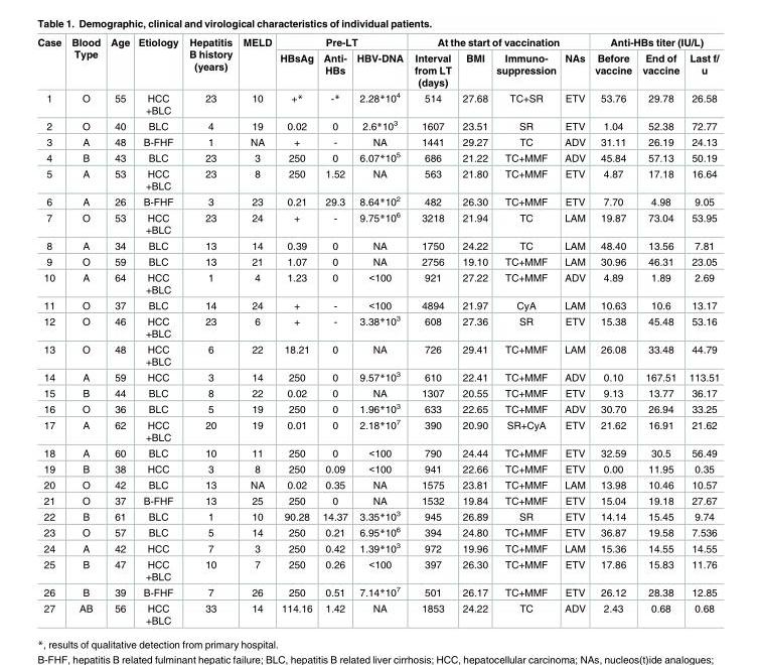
<table><thead><tr><td rowspan="2">Case</td><td rowspan="2">Blood Type</td><td rowspan="2">Age</td><td rowspan="2">Etiology</td><td rowspan="2">Hepatitis B history (years)</td><td rowspan="2">MELD</td><td colspan="3">Pre-LT</td><td colspan="4">At the start of vaccination</td><td colspan="3">Anti-HBs titer (IU/L)</td></tr><tr><td>HBsAg</td><td>Anti- HBs</td><td>HBV-DNA</td><td>Interval from LT (days)</td><td>BMI</td><td>Immuno- suppression</td><td>NAs</td><td>Before vaccine</td><td>End of vaccine</td><td>Last f/ u</td></tr></thead><tbody><tr><td>1</td><td>O</td><td>55</td><td>HCC +BLC</td><td>23</td><td>10</td><td>+*</td><td>-*</td><td>2.28*10<sup>4</sup></td><td>514</td><td>27.68</td><td>TC+SR</td><td>ETV</td><td>53.76</td><td>29.78</td><td>26.58</td></tr><tr><td>2</td><td>O</td><td>40</td><td>BLC</td><td>4</td><td>19</td><td>0.02</td><td>0</td><td>2.6*10<sup>3</sup></td><td>1607</td><td>23.51</td><td>SR</td><td>ETV</td><td>1.04</td><td>52.38</td><td>72.77</td></tr><tr><td>3</td><td>A</td><td>48</td><td>B-FHF</td><td>1</td><td>NA</td><td>+</td><td>-</td><td>NA</td><td>1441</td><td>29.27</td><td>TC</td><td>ADV</td><td>31.11</td><td>26.19</td><td>24.13</td></tr><tr><td>4</td><td>B</td><td>43</td><td>BLC</td><td>23</td><td>3</td><td>250</td><td>0</td><td>6.07*10<sup>5</sup></td><td>686</td><td>21.22</td><td>TC+MMF</td><td>ADV</td><td>45.84</td><td>57.13</td><td>50.19</td></tr><tr><td>5</td><td>A</td><td>53</td><td>HCC +BLC</td><td>23</td><td>8</td><td>250</td><td>1.52</td><td>NA</td><td>563</td><td>21.80</td><td>TC+MMF</td><td>ETV</td><td>4.87</td><td>17.18</td><td>16.64</td></tr><tr><td>6</td><td>A</td><td>26</td><td>B-FHF</td><td>3</td><td>23</td><td>0.21</td><td>29.3</td><td>8.64*10<sup>2</sup></td><td>482</td><td>26.30</td><td>TC+MMF</td><td>ETV</td><td>7.70</td><td>4.98</td><td>9.05</td></tr><tr><td>7</td><td>O</td><td>53</td><td>HCC +BLC</td><td>23</td><td>24</td><td>+</td><td>-</td><td>9.75*10<sup>6</sup></td><td>3218</td><td>21.94</td><td>TC</td><td>LAM</td><td>19.87</td><td>73.04</td><td>53.95</td></tr><tr><td>8</td><td>A</td><td>34</td><td>BLC</td><td>13</td><td>14</td><td>0.39</td><td>0</td><td>NA</td><td>1750</td><td>24.22</td><td>TC</td><td>LAM</td><td>48.40</td><td>13.56</td><td>7.81</td></tr><tr><td>9</td><td>O</td><td>59</td><td>BLC</td><td>13</td><td>21</td><td>1.07</td><td>0</td><td>NA</td><td>2756</td><td>19.10</td><td>TC+MMF</td><td>LAM</td><td>30.96</td><td>46.31</td><td>23.05</td></tr><tr><td>10</td><td>A</td><td>64</td><td>HCC +BLC</td><td>1</td><td>4</td><td>1.23</td><td>0</td><td>&lt;100</td><td>921</td><td>27.22</td><td>TC+MMF</td><td>ADV</td><td>4.89</td><td>1.89</td><td>2.69</td></tr><tr><td>11</td><td>O</td><td>37</td><td>BLC</td><td>14</td><td>24</td><td>+</td><td>-</td><td>&lt;100</td><td>4894</td><td>21.97</td><td>CyA</td><td>LAM</td><td>10.63</td><td>10.6</td><td>13.17</td></tr><tr><td>12</td><td>O</td><td>46</td><td>HCC +BLC</td><td>23</td><td>6</td><td>+</td><td>-</td><td>3.38*10<sup>3</sup></td><td>608</td><td>27.36</td><td>SR</td><td>ETV</td><td>15.38</td><td>45.48</td><td>53.16</td></tr><tr><td>13</td><td>O</td><td>48</td><td>HCC +BLC</td><td>6</td><td>22</td><td>18.21</td><td>0</td><td>NA</td><td>726</td><td>29.41</td><td>TC+MMF</td><td>LAM</td><td>26.08</td><td>33.48</td><td>44.79</td></tr><tr><td>14</td><td>A</td><td>59</td><td>HCC</td><td>3</td><td>14</td><td>250</td><td>0</td><td>9.57*10<sup>3</sup></td><td>610</td><td>22.41</td><td>TC+MMF</td><td>ADV</td><td>0.10</td><td>167.51</td><td>113.51</td></tr><tr><td>15</td><td>B</td><td>44</td><td>BLC</td><td>8</td><td>22</td><td>0.02</td><td>0</td><td>NA</td><td>1307</td><td>20.55</td><td>TC+MMF</td><td>ETV</td><td>9.13</td><td>13.77</td><td>36.17</td></tr><tr><td>16</td><td>O</td><td>36</td><td>BLC</td><td>5</td><td>19</td><td>250</td><td>0</td><td>1.96*10<sup>3</sup></td><td>633</td><td>22.65</td><td>TC+MMF</td><td>ADV</td><td>30.70</td><td>26.94</td><td>33.25</td></tr><tr><td>17</td><td>A</td><td>62</td><td>HCC +BLC</td><td>20</td><td>19</td><td>0.01</td><td>0</td><td>2.18*10<sup>7</sup></td><td>390</td><td>20.90</td><td>SR+CyA</td><td>ETV</td><td>21.62</td><td>16.91</td><td>21.62</td></tr><tr><td>18</td><td>A</td><td>60</td><td>BLC</td><td>10</td><td>11</td><td>250</td><td>0</td><td>&lt;100</td><td>790</td><td>24.44</td><td>TC+MMF</td><td>ETV</td><td>32.59</td><td>30.5</td><td>56.49</td></tr><tr><td>19</td><td>B</td><td>38</td><td>HCC</td><td>3</td><td>8</td><td>250</td><td>0.09</td><td>&lt;100</td><td>941</td><td>22.66</td><td>TC+MMF</td><td>ETV</td><td>0.00</td><td>11.95</td><td>0.35</td></tr><tr><td>20</td><td>O</td><td>42</td><td>BLC</td><td>13</td><td>NA</td><td>0.02</td><td>0.35</td><td>NA</td><td>1575</td><td>23.81</td><td>TC+MMF</td><td>LAM</td><td>13.98</td><td>10.46</td><td>10.57</td></tr><tr><td>21</td><td>O</td><td>37</td><td>B-FHF</td><td>13</td><td>25</td><td>250</td><td>0</td><td>NA</td><td>1532</td><td>19.84</td><td>TC+MMF</td><td>ETV</td><td>15.04</td><td>19.18</td><td>27.67</td></tr><tr><td>22</td><td>B</td><td>61</td><td>BLC</td><td>1</td><td>10</td><td>90.28</td><td>14.37</td><td>3.35*10<sup>3</sup></td><td>945</td><td>26.89</td><td>SR</td><td>ETV</td><td>14.14</td><td>15.45</td><td>9.74</td></tr><tr><td>23</td><td>O</td><td>57</td><td>BLC</td><td>5</td><td>14</td><td>250</td><td>0.21</td><td>6.95*10<sup>6</sup></td><td>394</td><td>24.80</td><td>TC+MMF</td><td>ETV</td><td>36.87</td><td>19.58</td><td>7.536</td></tr><tr><td>24</td><td>A</td><td>42</td><td>HCC</td><td>7</td><td>3</td><td>250</td><td>0.42</td><td>1.39*10<sup>3</sup></td><td>972</td><td>19.96</td><td>TC+MMF</td><td>LAM</td><td>15.36</td><td>14.55</td><td>14.55</td></tr><tr><td>25</td><td>B</td><td>47</td><td>HCC +BLC</td><td>10</td><td>7</td><td>250</td><td>0.26</td><td>&lt;100</td><td>397</td><td>26.30</td><td>TC+MMF</td><td>ETV</td><td>17.86</td><td>15.83</td><td>11.76</td></tr><tr><td>26</td><td>B</td><td>39</td><td>B-FHF</td><td>7</td><td>26</td><td>250</td><td>0.51</td><td>7.14*10<sup>7</sup></td><td>501</td><td>26.17</td><td>TC+MMF</td><td>ETV</td><td>26.12</td><td>28.38</td><td>12.85</td></tr><tr><td>27</td><td>AB</td><td>56</td><td>HCC +BLC</td><td>33</td><td>14</td><td>114.16</td><td>1.42</td><td>NA</td><td>1853</td><td>24.22</td><td>TC</td><td>ADV</td><td>2.43</td><td>0.68</td><td>0.68</td></tr></tbody></table>